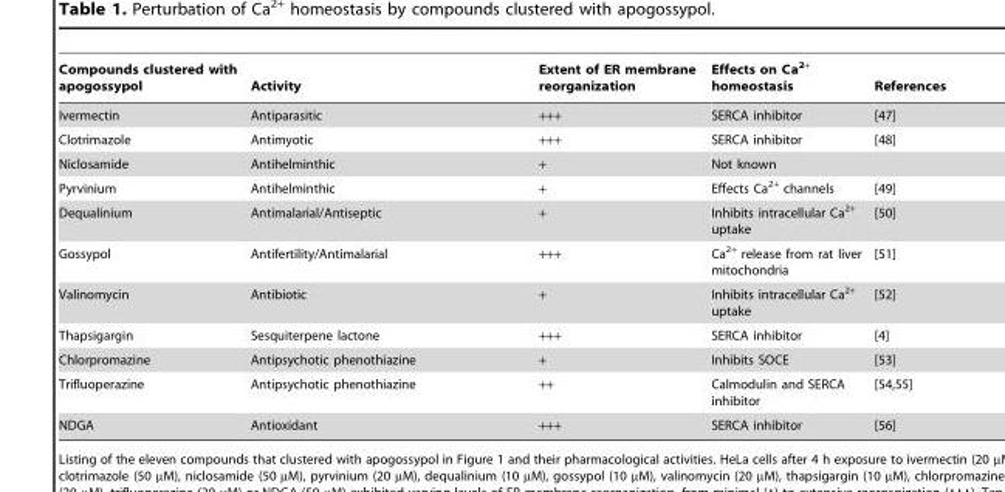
<table><thead><tr><td>Compounds clustered with apogossypol</td><td>Activity</td><td>Extent of ER membrane reorganization</td><td>Effects on Ca<sup>2+</sup> homeostasis</td><td>References</td></tr></thead><tbody><tr><td>Ivermectin</td><td>Antiparasitic</td><td>+++</td><td>SERCA inhibitor</td><td>[47]</td></tr><tr><td>Clotrimazole</td><td>Antimyotic</td><td>+++</td><td>SERCA inhibitor</td><td>[48]</td></tr><tr><td>Niclosamide</td><td>Antihelminthic</td><td>+</td><td>Not known</td><td></td></tr><tr><td>Pyrvinium</td><td>Antihelminthic</td><td>+</td><td>Effects Ca<sup>2+</sup> channels</td><td>[49]</td></tr><tr><td>Dequalinium</td><td>Antimalarial/Antiseptic</td><td>+</td><td>Inhibits intracellular Ca<sup>2+</sup> uptake</td><td>[50]</td></tr><tr><td>Gossypol</td><td>Antifertility/Antimalarial</td><td>+++</td><td>Ca<sup>2+</sup> release from rat liver mitochondria</td><td>[51]</td></tr><tr><td>Valinomycin</td><td>Antibiotic</td><td>+</td><td>Inhibits intracellular Ca<sup>2+</sup> uptake</td><td>[52]</td></tr><tr><td>Thapsigargin</td><td>Sesquiterpene lactone</td><td>+++</td><td>SERCA inhibitor</td><td>[4]</td></tr><tr><td>Chlorpromazine</td><td>Antipsychotic phenothiazine</td><td>+</td><td>Inhibits SOCE</td><td>[53]</td></tr><tr><td>Trifluoperazine</td><td>Antipsychotic phenothiazine</td><td>++</td><td>Calmodulin and SERCA inhibitor</td><td>[54,55]</td></tr><tr><td>NDGA</td><td>Antioxidant</td><td>+++</td><td>SERCA inhibitor</td><td>[56]</td></tr></tbody></table>